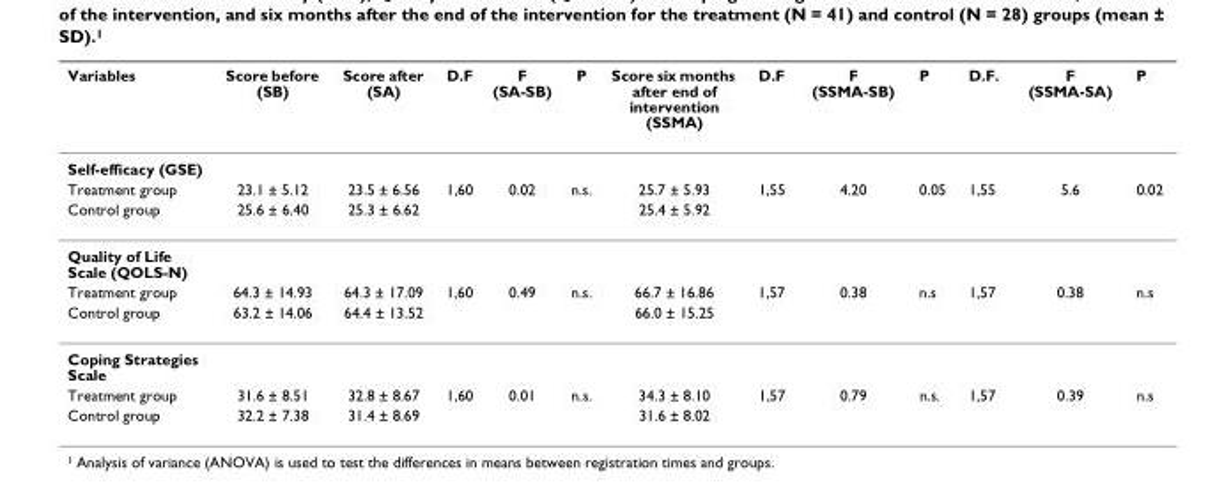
<table><thead><tr><td>Variables</td><td>Score before (SB)</td><td>Score after (SA)</td><td>D.F</td><td>F (SA-SB)</td><td>P</td><td>Score six months after end of intervention (SSMA)</td><td>D.F</td><td>F (SSMA-SB)</td><td>P</td><td>D.F.</td><td>F (SSMA-SA)</td><td>P</td></tr></thead><tbody><tr><td colspan="13">Self-efficacy (GSE)</td></tr><tr><td>Treatment group</td><td>23.1 ± 5.12</td><td>23.5 ± 6.56</td><td>1,60</td><td>0.02</td><td>n.s.</td><td>25.7 ± 5.93</td><td>1,55</td><td>4.20</td><td>0.05</td><td>1,55</td><td>5.6</td><td>0.02</td></tr><tr><td>Control group</td><td>25.6 ± 6.40</td><td>25.3 ± 6.62</td><td></td><td></td><td></td><td>25.4 ± 5.92</td><td></td><td></td><td></td><td></td><td></td><td></td></tr><tr><td colspan="13">Quality of Life Scale (QOLS-N)</td></tr><tr><td>Treatment group</td><td>64.3 ± 14.93</td><td>64.3 ± 17.09</td><td>1,60</td><td>0.49</td><td>n.s.</td><td>66.7 ± 16.86</td><td>1,57</td><td>0.38</td><td>n.s</td><td>1,57</td><td>0.38</td><td>n.s</td></tr><tr><td>Control group</td><td>63.2 ± 14.06</td><td>64.4 ± 13.52</td><td></td><td></td><td></td><td>66.0 ± 15.25</td><td></td><td></td><td></td><td></td><td></td><td></td></tr><tr><td colspan="13">Coping Strategies Scale</td></tr><tr><td>Treatment group</td><td>31.6 ± 8.51</td><td>32.8 ± 8.67</td><td>1,60</td><td>0.01</td><td>n.s.</td><td>34.3 ± 8.10</td><td>1,57</td><td>0.79</td><td>n.s.</td><td>1,57</td><td>0.39</td><td>n.s</td></tr><tr><td>Control group</td><td>32.2 ± 7.38</td><td>31.4 ± 8.69</td><td></td><td></td><td></td><td>31.6 ± 8.02</td><td></td><td></td><td></td><td></td><td></td><td></td></tr></tbody></table>